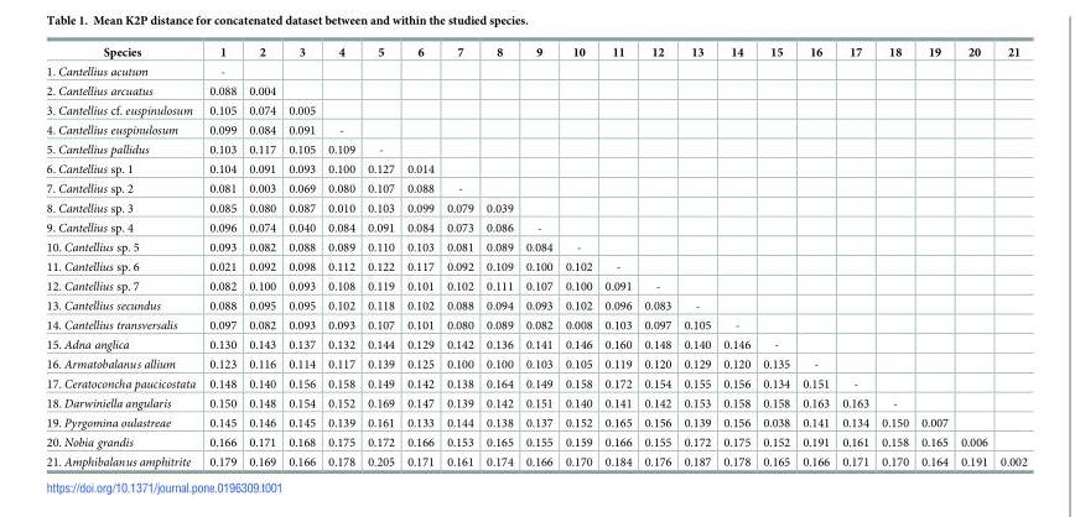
<table><tbody><tr><td>Species</td><td>1</td><td>2</td><td>3</td><td>4</td><td>5</td><td>6</td><td>7</td><td>8</td><td>9</td><td>10</td><td>11</td><td>12</td><td>13</td><td>14</td><td>15</td><td>16</td><td>17</td><td>18</td><td>19</td><td>20</td><td>21</td></tr><tr><td>1. Cantellius acutum</td><td>-</td><td></td><td></td><td></td><td></td><td></td><td></td><td></td><td></td><td></td><td></td><td></td><td></td><td></td><td></td><td></td><td></td><td></td><td></td><td></td><td></td></tr><tr><td>2. Cantellius arcuatus</td><td>0.088</td><td>0.004</td><td></td><td></td><td></td><td></td><td></td><td></td><td></td><td></td><td></td><td></td><td></td><td></td><td></td><td></td><td></td><td></td><td></td><td></td><td></td></tr><tr><td>3. Cantellius cf. euspinulosum</td><td>0.105</td><td>0.074</td><td>0.005</td><td></td><td></td><td></td><td></td><td></td><td></td><td></td><td></td><td></td><td></td><td></td><td></td><td></td><td></td><td></td><td></td><td></td><td></td></tr><tr><td>4. Cantellius euspinulosum</td><td>0.099</td><td>0.084</td><td>0.091</td><td>-</td><td></td><td></td><td></td><td></td><td></td><td></td><td></td><td></td><td></td><td></td><td></td><td></td><td></td><td></td><td></td><td></td><td></td></tr><tr><td>5. Cantellius pallidus</td><td>0.103</td><td>0.117</td><td>0.105</td><td>0.109</td><td>-</td><td></td><td></td><td></td><td></td><td></td><td></td><td></td><td></td><td></td><td></td><td></td><td></td><td></td><td></td><td></td><td></td></tr><tr><td>6. Cantellius sp. 1</td><td>0.104</td><td>0.091</td><td>0.093</td><td>0.100</td><td>0.127</td><td>0.014</td><td></td><td></td><td></td><td></td><td></td><td></td><td></td><td></td><td></td><td></td><td></td><td></td><td></td><td></td><td></td></tr><tr><td>7. Cantellius sp. 2</td><td>0.081</td><td>0.003</td><td>0.069</td><td>0.080</td><td>0.107</td><td>0.088</td><td>-</td><td></td><td></td><td></td><td></td><td></td><td></td><td></td><td></td><td></td><td></td><td></td><td></td><td></td><td></td></tr><tr><td>8. Cantellius sp. 3</td><td>0.085</td><td>0.080</td><td>0.087</td><td>0.010</td><td>0.103</td><td>0.099</td><td>0.079</td><td>0.039</td><td></td><td></td><td></td><td></td><td></td><td></td><td></td><td></td><td></td><td></td><td></td><td></td><td></td></tr><tr><td>9. Cantellius sp. 4</td><td>0.096</td><td>0.074</td><td>0.040</td><td>0.084</td><td>0.091</td><td>0.084</td><td>0.073</td><td>0.086</td><td>-</td><td></td><td></td><td></td><td></td><td></td><td></td><td></td><td></td><td></td><td></td><td></td><td></td></tr><tr><td>10. Cantellius sp. 5</td><td>0.093</td><td>0.082</td><td>0.088</td><td>0.089</td><td>0.110</td><td>0.103</td><td>0.081</td><td>0.089</td><td>0.084</td><td>-</td><td></td><td></td><td></td><td></td><td></td><td></td><td></td><td></td><td></td><td></td><td></td></tr><tr><td>11. Cantellius sp. 6</td><td>0.021</td><td>0.092</td><td>0.098</td><td>0.112</td><td>0.122</td><td>0.117</td><td>0.092</td><td>0.109</td><td>0.100</td><td>0.102</td><td>-</td><td></td><td></td><td></td><td></td><td></td><td></td><td></td><td></td><td></td><td></td></tr><tr><td>12. Cantellius sp. 7</td><td>0.082</td><td>0.100</td><td>0.093</td><td>0.108</td><td>0.119</td><td>0.101</td><td>0.102</td><td>0.111</td><td>0.107</td><td>0.100</td><td>0.091</td><td>-</td><td></td><td></td><td></td><td></td><td></td><td></td><td></td><td></td><td></td></tr><tr><td>13. Cantellius secundus</td><td>0.088</td><td>0.095</td><td>0.095</td><td>0.102</td><td>0.118</td><td>0.102</td><td>0.088</td><td>0.094</td><td>0.093</td><td>0.102</td><td>0.096</td><td>0.083</td><td>-</td><td></td><td></td><td></td><td></td><td></td><td></td><td></td><td></td></tr><tr><td>14. Cantellius transversalis</td><td>0.097</td><td>0.082</td><td>0.093</td><td>0.093</td><td>0.107</td><td>0.101</td><td>0.080</td><td>0.089</td><td>0.082</td><td>0.008</td><td>0.103</td><td>0.097</td><td>0.105</td><td>-</td><td></td><td></td><td></td><td></td><td></td><td></td><td></td></tr><tr><td>15. Adna anglica</td><td>0.130</td><td>0.143</td><td>0.137</td><td>0.132</td><td>0.144</td><td>0.129</td><td>0.142</td><td>0.136</td><td>0.141</td><td>0.146</td><td>0.160</td><td>0.148</td><td>0.140</td><td>0.146</td><td>-</td><td></td><td></td><td></td><td></td><td></td><td></td></tr><tr><td>16. Armatobalanus allium</td><td>0.123</td><td>0.116</td><td>0.114</td><td>0.117</td><td>0.139</td><td>0.125</td><td>0.100</td><td>0.100</td><td>0.103</td><td>0.105</td><td>0.119</td><td>0.120</td><td>0.129</td><td>0.120</td><td>0.135</td><td>-</td><td></td><td></td><td></td><td></td><td></td></tr><tr><td>17. Ceratoconcha paucicostata</td><td>0.148</td><td>0.140</td><td>0.156</td><td>0.158</td><td>0.149</td><td>0.142</td><td>0.138</td><td>0.164</td><td>0.149</td><td>0.158</td><td>0.172</td><td>0.154</td><td>0.155</td><td>0.156</td><td>0.134</td><td>0.151</td><td>-</td><td></td><td></td><td></td><td></td></tr><tr><td>18. Darwiniella angularis</td><td>0.150</td><td>0.148</td><td>0.154</td><td>0.152</td><td>0.169</td><td>0.147</td><td>0.139</td><td>0.142</td><td>0.151</td><td>0.140</td><td>0.141</td><td>0.142</td><td>0.153</td><td>0.158</td><td>0.158</td><td>0.163</td><td>0.163</td><td>-</td><td></td><td></td><td></td></tr><tr><td>19. Pyrgomina oulastreae</td><td>0.145</td><td>0.146</td><td>0.145</td><td>0.139</td><td>0.161</td><td>0.133</td><td>0.144</td><td>0.138</td><td>0.137</td><td>0.152</td><td>0.165</td><td>0.156</td><td>0.139</td><td>0.156</td><td>0.038</td><td>0.141</td><td>0.134</td><td>0.150</td><td>0.007</td><td></td><td></td></tr><tr><td>20. Nobia grandis</td><td>0.166</td><td>0.171</td><td>0.168</td><td>0.175</td><td>0.172</td><td>0.166</td><td>0.153</td><td>0.165</td><td>0.155</td><td>0.159</td><td>0.166</td><td>0.155</td><td>0.172</td><td>0.175</td><td>0.152</td><td>0.191</td><td>0.161</td><td>0.158</td><td>0.165</td><td>0.006</td><td></td></tr><tr><td>21. Amphibalanus amphitrite</td><td>0.179</td><td>0.169</td><td>0.166</td><td>0.178</td><td>0.205</td><td>0.171</td><td>0.161</td><td>0.174</td><td>0.166</td><td>0.170</td><td>0.184</td><td>0.176</td><td>0.187</td><td>0.178</td><td>0.165</td><td>0.166</td><td>0.171</td><td>0.170</td><td>0.164</td><td>0.191</td><td>0.002</td></tr></tbody></table>